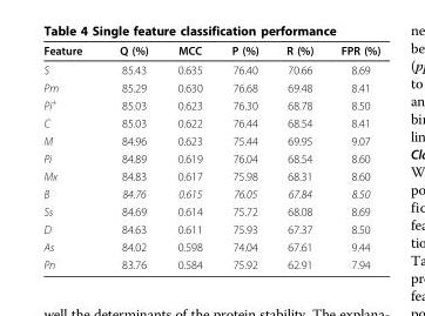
<table><thead><tr><td>Feature</td><td>Q (%)</td><td>MCC</td><td>P (%)</td><td>R (%)</td><td>FPR (%)</td></tr></thead><tbody><tr><td>S</td><td>85.43</td><td>0.635</td><td>76.40</td><td>70.66</td><td>8.69</td></tr><tr><td>Pm</td><td>85.29</td><td>0.630</td><td>76.68</td><td>69.48</td><td>8.41</td></tr><tr><td>Pi<sup>+</sup></td><td>85.03</td><td>0.623</td><td>76.30</td><td>68.78</td><td>8.50</td></tr><tr><td>C</td><td>85.03</td><td>0.622</td><td>76.44</td><td>68.54</td><td>8.41</td></tr><tr><td>M</td><td>84.96</td><td>0.623</td><td>75.44</td><td>69.95</td><td>9.07</td></tr><tr><td>Pi</td><td>84.89</td><td>0.619</td><td>76.04</td><td>68.54</td><td>8.60</td></tr><tr><td>Mx</td><td>84.83</td><td>0.617</td><td>75.98</td><td>68.31</td><td>8.60</td></tr><tr><td>B</td><td>84.76</td><td>0.615</td><td>76.05</td><td>67.84</td><td>8.50</td></tr><tr><td>Ss</td><td>84.69</td><td>0.614</td><td>75.72</td><td>68.08</td><td>8.69</td></tr><tr><td>D</td><td>84.63</td><td>0.611</td><td>75.93</td><td>67.37</td><td>8.50</td></tr><tr><td>As</td><td>84.02</td><td>0.598</td><td>74.04</td><td>67.61</td><td>9.44</td></tr><tr><td>Pn</td><td>83.76</td><td>0.584</td><td>75.92</td><td>62.91</td><td>7.94</td></tr></tbody></table>